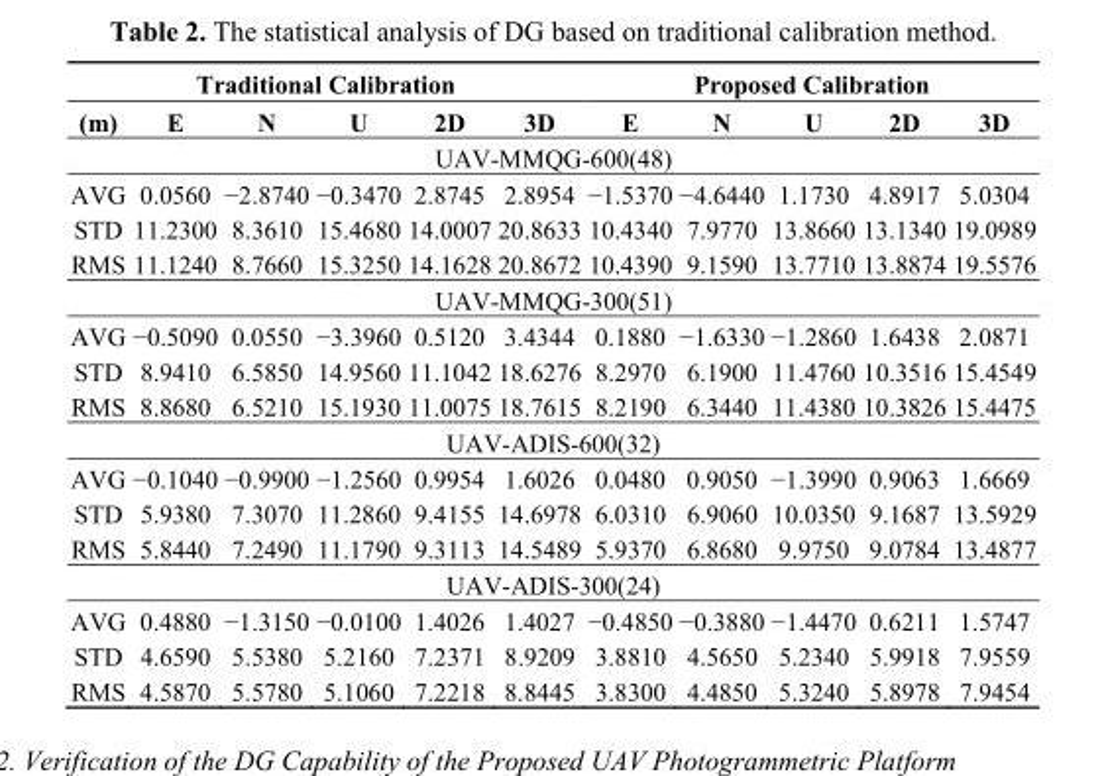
<table><thead><tr><td colspan="6">Traditional Calibration</td><td colspan="5">Proposed Calibration</td></tr><tr><td>(m)</td><td>E</td><td>N</td><td>U</td><td>2D</td><td>3D</td><td>E</td><td>N</td><td>U</td><td>2D</td><td>3D</td></tr></thead><tbody><tr><td colspan="11">UAV-MMQG-600(48)</td></tr><tr><td>AVG</td><td>0.0560</td><td>−2.8740</td><td>−0.3470</td><td>2.8745</td><td>2.8954</td><td>−1.5370</td><td>−4.6440</td><td>1.1730</td><td>4.8917</td><td>5.0304</td></tr><tr><td>STD</td><td>11.2300</td><td>8.3610</td><td>15.4680</td><td>14.0007</td><td>20.8633</td><td>10.4340</td><td>7.9770</td><td>13.8660</td><td>13.1340</td><td>19.0989</td></tr><tr><td>RMS</td><td>11.1240</td><td>8.7660</td><td>15.3250</td><td>14.1628</td><td>20.8672</td><td>10.4390</td><td>9.1590</td><td>13.7710</td><td>13.8874</td><td>19.5576</td></tr><tr><td colspan="11">UAV-MMQG-300(51)</td></tr><tr><td>AVG</td><td>−0.5090</td><td>0.0550</td><td>−3.3960</td><td>0.5120</td><td>3.4344</td><td>0.1880</td><td>−1.6330</td><td>−1.2860</td><td>1.6438</td><td>2.0871</td></tr><tr><td>STD</td><td>8.9410</td><td>6.5850</td><td>14.9560</td><td>11.1042</td><td>18.6276</td><td>8.2970</td><td>6.1900</td><td>11.4760</td><td>10.3516</td><td>15.4549</td></tr><tr><td>RMS</td><td>8.8680</td><td>6.5210</td><td>15.1930</td><td>11.0075</td><td>18.7615</td><td>8.2190</td><td>6.3440</td><td>11.4380</td><td>10.3826</td><td>15.4475</td></tr><tr><td colspan="11">UAV-ADIS-600(32)</td></tr><tr><td>AVG</td><td>−0.1040</td><td>−0.9900</td><td>−1.2560</td><td>0.9954</td><td>1.6026</td><td>0.0480</td><td>0.9050</td><td>−1.3990</td><td>0.9063</td><td>1.6669</td></tr><tr><td>STD</td><td>5.9380</td><td>7.3070</td><td>11.2860</td><td>9.4155</td><td>14.6978</td><td>6.0310</td><td>6.9060</td><td>10.0350</td><td>9.1687</td><td>13.5929</td></tr><tr><td>RMS</td><td>5.8440</td><td>7.2490</td><td>11.1790</td><td>9.3113</td><td>14.5489</td><td>5.9370</td><td>6.8680</td><td>9.9750</td><td>9.0784</td><td>13.4877</td></tr><tr><td colspan="11">UAV-ADIS-300(24)</td></tr><tr><td>AVG</td><td>0.4880</td><td>−1.3150</td><td>−0.0100</td><td>1.4026</td><td>1.4027</td><td>−0.4850</td><td>−0.3880</td><td>−1.4470</td><td>0.6211</td><td>1.5747</td></tr><tr><td>STD</td><td>4.6590</td><td>5.5380</td><td>5.2160</td><td>7.2371</td><td>8.9209</td><td>3.8810</td><td>4.5650</td><td>5.2340</td><td>5.9918</td><td>7.9559</td></tr><tr><td>RMS</td><td>4.5870</td><td>5.5780</td><td>5.1060</td><td>7.2218</td><td>8.8445</td><td>3.8300</td><td>4.4850</td><td>5.3240</td><td>5.8978</td><td>7.9454</td></tr></tbody></table>